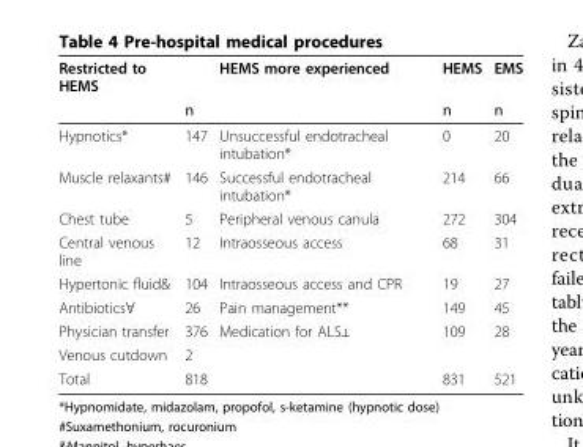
<table><thead><tr><td rowspan="2">Restricted to HEMS</td><td rowspan="2">n</td><td rowspan="2">HEMS more experienced</td><td rowspan="2">HEMS n</td><td rowspan="2">EMS n</td></tr><tr></tr></thead><tbody><tr><td>Hypnotics*</td><td>147</td><td>Unsuccessful endotracheal intubation<sup>®</sup></td><td>0</td><td>20</td></tr><tr><td>Muscle relaxants#</td><td>146</td><td>Successful endotracheal intubation<sup>®</sup></td><td>214</td><td>66</td></tr><tr><td>Chest tube</td><td>5</td><td>Peripheral venous canula</td><td>272</td><td>304</td></tr><tr><td>Central venous line</td><td>12</td><td>Intraosseous access</td><td>68</td><td>31</td></tr><tr><td>Hypertonic fluid&amp;</td><td>104</td><td>Intraosseous access and CPR</td><td>19</td><td>27</td></tr><tr><td>Antibiotics∀</td><td>26</td><td>Pain management**</td><td>149</td><td>45</td></tr><tr><td>Physician transfer</td><td>376</td><td>Medication for ALS⊥</td><td>109</td><td>28</td></tr><tr><td>Venous cutdown</td><td>2</td><td></td><td></td><td></td></tr><tr><td>Total</td><td>818</td><td></td><td>831</td><td>521</td></tr></tbody></table>